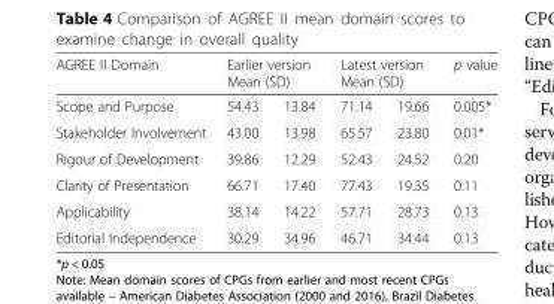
<table><thead><tr><td rowspan="2">AGREE II Domain Scope and Purpose</td><td colspan="2">Earlier version Mean (SD)</td><td colspan="2">Latest version Mean (SD)</td><td rowspan="2">p value 0.005*</td></tr><tr><td>54.43</td><td>13.84</td><td>71.14</td><td>19.66</td></tr></thead><tbody><tr><td>Stakeholder Involvement</td><td>43.00</td><td>13.98</td><td>65.57</td><td>23.80</td><td>0.01*</td></tr><tr><td>Rigour of Development</td><td>39.86</td><td>12.29</td><td>52.43</td><td>24.52</td><td>0.20</td></tr><tr><td>Clarity of Presentation</td><td>66.71</td><td>17.40</td><td>77.43</td><td>19.35</td><td>0.11</td></tr><tr><td>Applicability</td><td>38.14</td><td>14.22</td><td>57.71</td><td>28.73</td><td>0.13</td></tr><tr><td>Editorial Independence</td><td>30.29</td><td>34.96</td><td>46.71</td><td>34.44</td><td>0.13</td></tr></tbody></table>